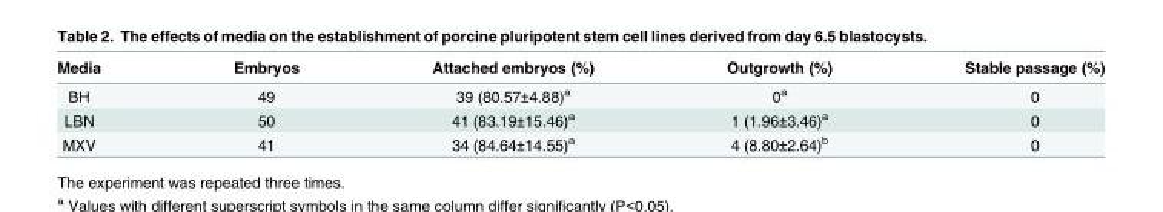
<table><thead><tr><td>Media</td><td>Embryos</td><td>Attached embryos (%)</td><td>Outgrowth (%)</td><td>Stable passage (%)</td></tr></thead><tbody><tr><td>BH</td><td>49</td><td>39 (80.57±4.88)<sup>a</sup></td><td>0<sup>a</sup></td><td>0</td></tr><tr><td>LBN</td><td>50</td><td>41 (83.19±15.46)<sup>a</sup></td><td>1 (1.96±3.46)<sup>a</sup></td><td>0</td></tr><tr><td>MXV</td><td>41</td><td>34 (84.64±14.55)<sup>a</sup></td><td>4 (8.80±2.64)<sup>b</sup></td><td>0</td></tr></tbody></table>